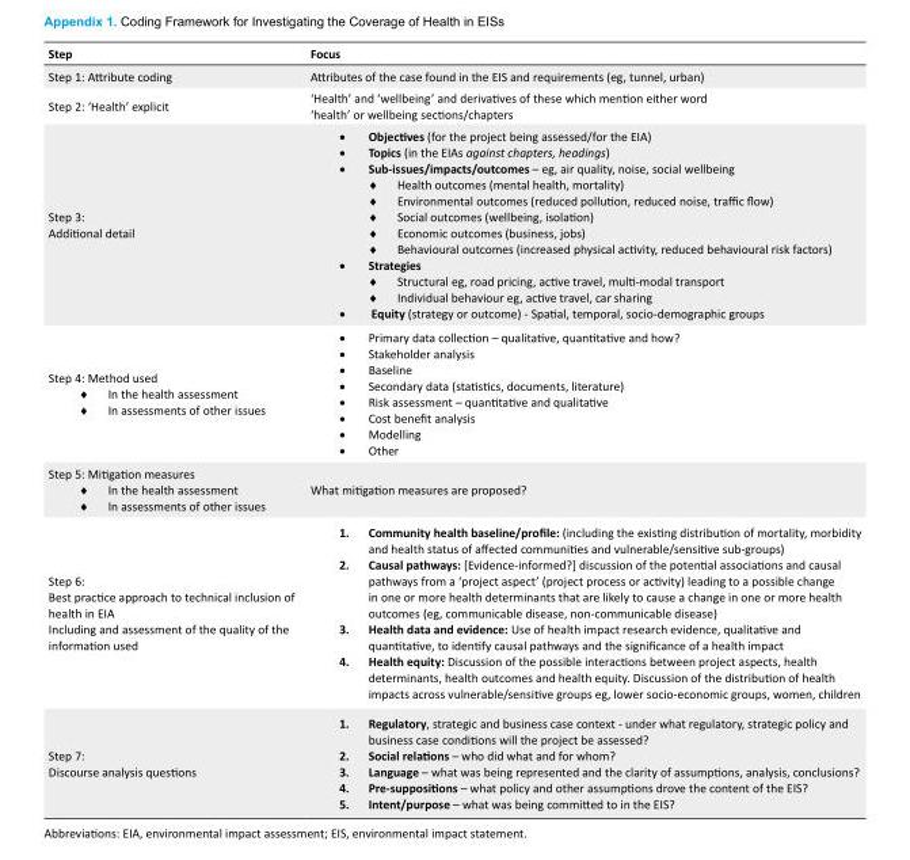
<table><tbody><tr><td>Step</td><td>Focus</td></tr><tr><td>Step 1: Attribute coding</td><td>Attributes of the case found in the EIS and requirements (eg, tunnel, urban)</td></tr><tr><td>Step 2: ‘Health’ explicit</td><td>‘Health’ and ‘wellbeing’ and derivatives of these which mention either word ‘health’ or wellbeing sections/chapters</td></tr><tr><td>Step 3: Additional detail</td><td>• Objectives (for the project being assessed/for the EIA) • Topics (in the EIAs against chapters, headings) • Sub-issues/impacts/outcomes – eg, air quality, noise, social wellbeing ♦ Health outcomes (mental health, mortality) ♦ Environmental outcomes (reduced pollution, reduced noise, traffic flow) ♦ Social outcomes (wellbeing, isolation) ♦ Economic outcomes (business, jobs) ♦ Behavioural outcomes (increased physical activity, reduced behavioural risk factors) • Strategies ♦ Structural eg, road pricing, active travel, multi-modal transport ♦ Individual behaviour eg, active travel, car sharing • Equity (strategy or outcome) - Spatial, temporal, socio-demographic groups</td></tr><tr><td>Step 4: Method used ♦ In the health assessment ♦ In assessments of other issues</td><td>• Primary data collection – qualitative, quantitative and how? • Stakeholder analysis • Baseline • Secondary data (statistics, documents, literature) • Risk assessment – quantitative and qualitative • Cost benefit analysis • Modelling • Other</td></tr><tr><td>Step 5: Mitigation measures ♦ In the health assessment ♦ In assessments of other issues</td><td>What mitigation measures are proposed?</td></tr><tr><td>Step 6: Best practice approach to technical inclusion of health in EIA Including and assessment of the quality of the information used</td><td>1. Community health baseline/profile: (including the existing distribution of mortality, morbidity and health status of affected communities and vulnerable/sensitive sub-groups) 2. Causal pathways: [Evidence-informed?] discussion of the potential associations and causal pathways from a ‘project aspect’ (project process or activity) leading to a possible change in one or more health determinants that are likely to cause a change in one or more health outcomes (eg, communicable disease, non-communicable disease) 3. Health data and evidence: Use of health impact research evidence, qualitative and quantitative, to identify causal pathways and the significance of a health impact 4. Health equity: Discussion of the possible interactions between project aspects, health determinants, health outcomes and health equity. Discussion of the distribution of health impacts across vulnerable/sensitive groups eg, lower socio-economic groups, women, children</td></tr><tr><td>Step 7: Discourse analysis questions</td><td>1. Regulatory, strategic and business case context - under what regulatory, strategic policy and business case conditions will the project be assessed? 2. Social relations – who did what and for whom? 3. Language – what was being represented and the clarity of assumptions, analysis, conclusions? 4. Pre-suppositions – what policy and other assumptions drove the content of the EIS? 5. Intent/purpose – what was being committed to in the EIS?</td></tr></tbody></table>